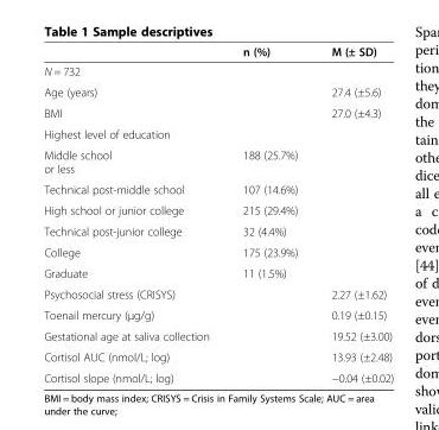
<table><thead><tr><td></td><td>n (%)</td><td>M (± SD)</td></tr></thead><tbody><tr><td colspan="3">N = 732</td></tr><tr><td>Age (years)</td><td></td><td>27.4 (±5.6)</td></tr><tr><td>BMI</td><td></td><td>27.0 (±4.3)</td></tr><tr><td colspan="3">Highest level of education</td></tr><tr><td>Middle school or less</td><td>188 (25.7%)</td><td></td></tr><tr><td>Technical post-middle school</td><td>107 (14.6%)</td><td></td></tr><tr><td>High school or junior college</td><td>215 (29.4%)</td><td></td></tr><tr><td>Technical post-junior college</td><td>32 (4.4%)</td><td></td></tr><tr><td>College</td><td>175 (23.9%)</td><td></td></tr><tr><td>Graduate</td><td>11 (1.5%)</td><td></td></tr><tr><td>Psychosocial stress (CRISYS)</td><td></td><td>2.27 (±1.62)</td></tr><tr><td>Toenail mercury (μg/g)</td><td></td><td>0.19 (±0.15)</td></tr><tr><td>Gestational age at saliva collection</td><td></td><td>19.52 (±3.00)</td></tr><tr><td>Cortisol AUC (nmol/L; log)</td><td></td><td>13.93 (±2.48)</td></tr><tr><td>Cortisol slope (nmol/L; log)</td><td></td><td>−0.04 (±0.02)</td></tr></tbody></table>